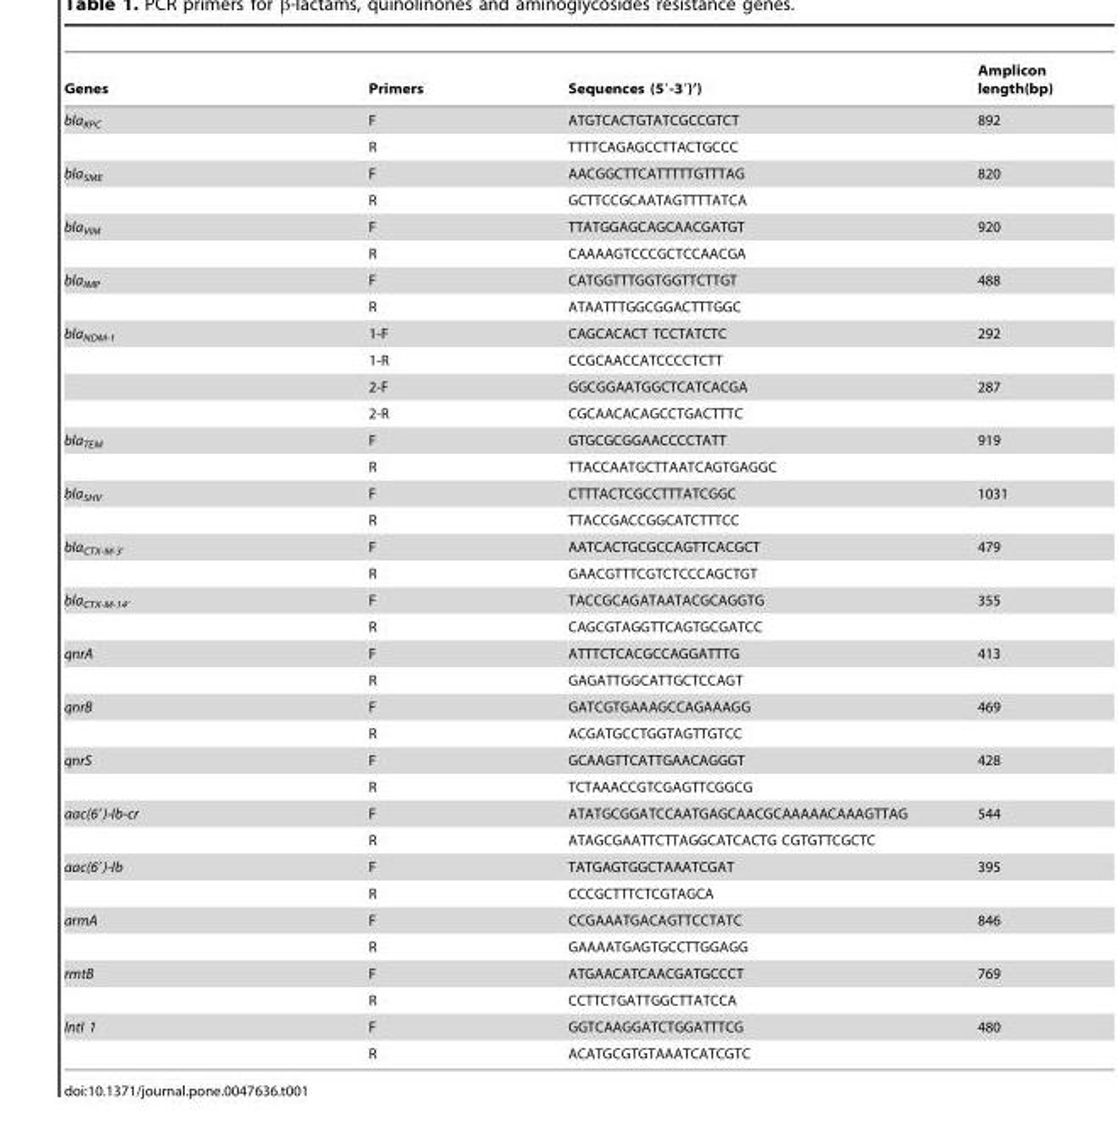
<table><thead><tr><td>Genes</td><td>Primers</td><td>Sequences (5′-3′)’)</td><td>Amplicon length(bp)</td></tr></thead><tbody><tr><td rowspan="2">bla<sub>KPC</sub></td><td>F</td><td>ATGTCACTGTATCGCCGTCT</td><td>892</td></tr><tr><td>R</td><td>TTTTCAGAGCCTTACTGCCC</td><td></td></tr><tr><td rowspan="2">bla<sub>SME</sub></td><td>F</td><td>AACGGCTTCATTTTTGTTTAG</td><td>820</td></tr><tr><td>R</td><td>GCTTCCGCAATAGTTTTATCA</td><td></td></tr><tr><td rowspan="2">bla<sub>VIM</sub></td><td>F</td><td>TTATGGAGCAGCAACGATGT</td><td>920</td></tr><tr><td>R</td><td>CAAAAGTCCCGCTCCAACGA</td><td></td></tr><tr><td rowspan="2">bla<sub>IMP</sub></td><td>F</td><td>CATGGTTTGGTGGTTCTTGT</td><td>488</td></tr><tr><td>R</td><td>ATAATTTGGCGGACTTTGGC</td><td></td></tr><tr><td rowspan="4">bla<sub>NDM-1</sub></td><td>1-F</td><td>CAGCACACT TCCTATCTC</td><td>292</td></tr><tr><td>1-R</td><td>CCGCAACCATCCCCTCTT</td><td></td></tr><tr><td>2-F</td><td>GGCGGAATGGCTCATCACGA</td><td>287</td></tr><tr><td>2-R</td><td>CGCAACACAGCCTGACTTTC</td><td></td></tr><tr><td rowspan="2">bla<sub>TEM</sub></td><td>F</td><td>GTGCGCGGAACCCCTATT</td><td>919</td></tr><tr><td>R</td><td>TTACCAATGCTTAATCAGTGAGGC</td><td></td></tr><tr><td rowspan="2">bla<sub>SHV</sub></td><td>F</td><td>CTTTACTCGCCTTTATCGGC</td><td>1031</td></tr><tr><td>R</td><td>TTACCGACCGGCATCTTTCC</td><td></td></tr><tr><td rowspan="2">bla<sub>CTX-M-3′</sub></td><td>F</td><td>AATCACTGCGCCAGTTCACGCT</td><td>479</td></tr><tr><td>R</td><td>GAACGTTTCGTCTCCCAGCTGT</td><td></td></tr><tr><td rowspan="2">bla<sub>CTX-M-14′</sub></td><td>F</td><td>TACCGCAGATAATACGCAGGTG</td><td>355</td></tr><tr><td>R</td><td>CAGCGTAGGTTCAGTGCGATCC</td><td></td></tr><tr><td rowspan="2">qnrA</td><td>F</td><td>ATTTCTCACGCCAGGATTTG</td><td>413</td></tr><tr><td>R</td><td>GAGATTGGCATTGCTCCAGT</td><td></td></tr><tr><td rowspan="2">qnrB</td><td>F</td><td>GATCGTGAAAGCCAGAAAGG</td><td>469</td></tr><tr><td>R</td><td>ACGATGCCTGGTAGTTGTCC</td><td></td></tr><tr><td rowspan="2">qnrS</td><td>F</td><td>GCAAGTTCATTGAACAGGGT</td><td>428</td></tr><tr><td>R</td><td>TCTAAACCGTCGAGTTCGGCG</td><td></td></tr><tr><td rowspan="2">aac(6′)-Ib-cr</td><td>F</td><td>ATATGCGGATCCAATGAGCAACGCAAAAACAAAGTTAG</td><td>544</td></tr><tr><td>R</td><td>ATAGCGAATTCTTAGGCATCACTG CGTGTTCGCTC</td><td></td></tr><tr><td rowspan="2">aac(6′)-Ib</td><td>F</td><td>TATGAGTGGCTAAATCGAT</td><td>395</td></tr><tr><td>R</td><td>CCCGCTTTCTCGTAGCA</td><td></td></tr><tr><td rowspan="2">armA</td><td>F</td><td>CCGAAATGACAGTTCCTATC</td><td>846</td></tr><tr><td>R</td><td>GAAAATGAGTGCCTTGGAGG</td><td></td></tr><tr><td rowspan="2">rmtB</td><td>F</td><td>ATGAACATCAACGATGCCCT</td><td>769</td></tr><tr><td>R</td><td>CCTTCTGATTGGCTTATCCA</td><td></td></tr><tr><td rowspan="2">IntI 1</td><td>F</td><td>GGTCAAGGATCTGGATTTCG</td><td>480</td></tr><tr><td>R</td><td>ACATGCGTGTAAATCATCGTC</td><td></td></tr></tbody></table>